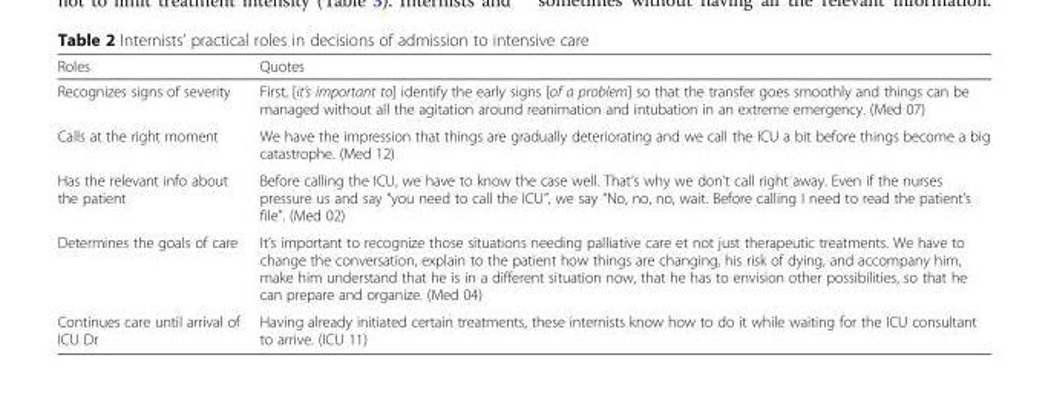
<table><thead><tr><td>Roles</td><td>Quotes</td></tr></thead><tbody><tr><td>Recognizes signs of severity</td><td>First, [it’s important to] identify the early signs [of a problem] so that the transfer goes smoothly and things can be managed without all the agitation around reanimation and intubation in an extreme emergency. (Med 07)</td></tr><tr><td>Calls at the right moment</td><td>We have the impression that things are gradually deteriorating and we call the ICU a bit before things become a big catastrophe. (Med 12)</td></tr><tr><td>Has the relevant info about the patient</td><td>Before calling the ICU, we have to know the case well. That’s why we don’t call right away. Even if the nurses pressure us and say “you need to call the ICU”, we say “No, no, no, wait. Before calling I need to read the patient’s file”. (Med 02)</td></tr><tr><td>Determines the goals of care</td><td>It’s important to recognize those situations needing palliative care et not just therapeutic treatments. We have to change the conversation, explain to the patient how things are changing, his risk of dying, and accompany him, make him understand that he is in a different situation now, that he has to envision other possibilities, so that he can prepare and organize. (Med 04)</td></tr><tr><td>Continues care until arrival of ICU Dr</td><td>Having already initiated certain treatments, these internists know how to do it while waiting for the ICU consultant to arrive. (ICU 11)</td></tr></tbody></table>